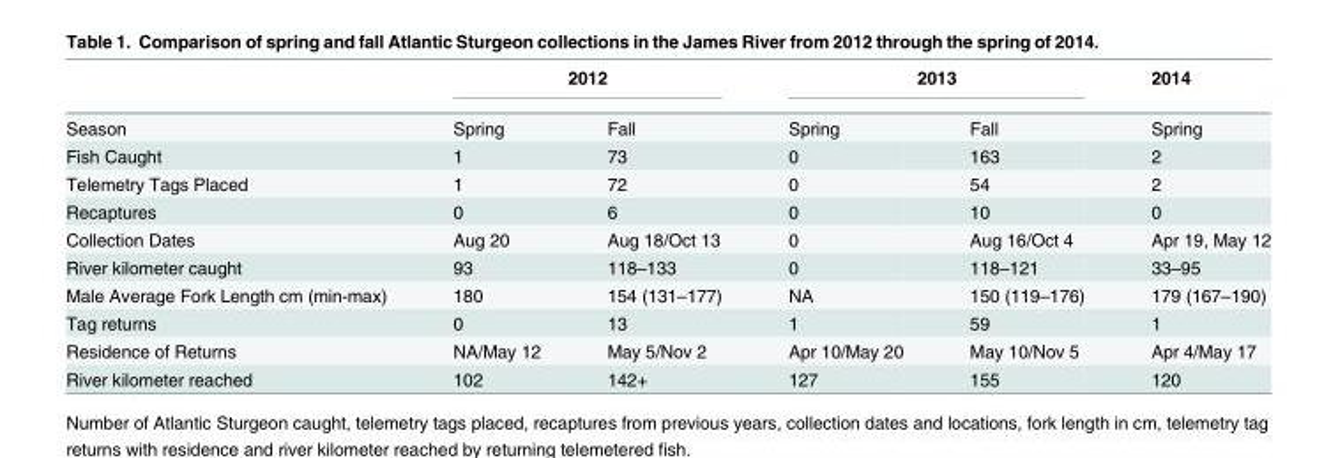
<table><thead><tr><td rowspan="2">Season</td><td colspan="2">2012</td><td colspan="2">2013</td><td rowspan="2">2014 Spring</td></tr><tr><td>Spring</td><td>Fall</td><td>Spring</td><td>Fall</td></tr></thead><tbody><tr><td>Fish Caught</td><td>1</td><td>73</td><td>0</td><td>163</td><td>2</td></tr><tr><td>Telemetry Tags Placed</td><td>1</td><td>72</td><td>0</td><td>54</td><td>2</td></tr><tr><td>Recaptures</td><td>0</td><td>6</td><td>0</td><td>10</td><td>0</td></tr><tr><td>Collection Dates</td><td>Aug 20</td><td>Aug 18/Oct 13</td><td>0</td><td>Aug 16/Oct 4</td><td>Apr 19, May 12</td></tr><tr><td>River kilometer caught</td><td>93</td><td>118–133</td><td>0</td><td>118–121</td><td>33–95</td></tr><tr><td>Male Average Fork Length cm (min-max)</td><td>180</td><td>154 (131–177)</td><td>NA</td><td>150 (119–176)</td><td>179 (167–190)</td></tr><tr><td>Tag returns</td><td>0</td><td>13</td><td>1</td><td>59</td><td>1</td></tr><tr><td>Residence of Returns</td><td>NA/May 12</td><td>May 5/Nov 2</td><td>Apr 10/May 20</td><td>May 10/Nov 5</td><td>Apr 4/May 17</td></tr><tr><td>River kilometer reached</td><td>102</td><td>142+</td><td>127</td><td>155</td><td>120</td></tr></tbody></table>